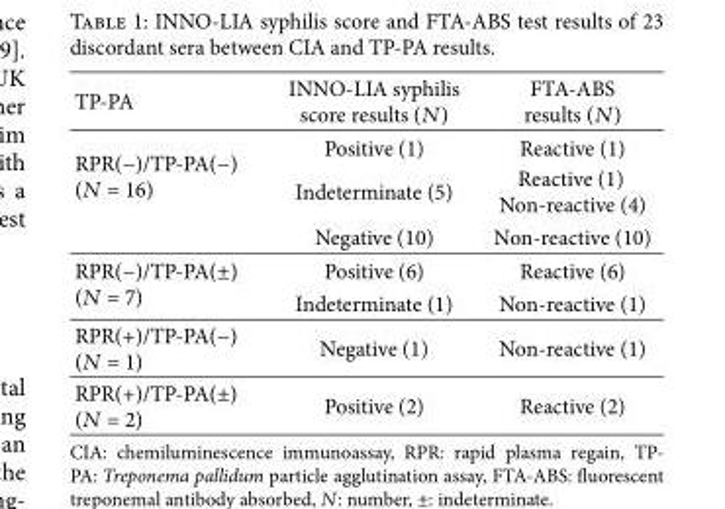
<table><thead><tr><td>TP-PA</td><td>INNO-LIA syphilis score results (𝑁𝑁)</td><td>FTA-ABS results (𝑁𝑁)</td></tr></thead><tbody><tr><td rowspan="3">RPR(−)/TP-PA(−) (𝑁𝑁 = 16)</td><td>Positive (1)</td><td>Reactive (1)</td></tr><tr><td>Indeterminate (5)</td><td>Reactive (1) Non-reactive (4)</td></tr><tr><td>Negative (10)</td><td>Non-reactive (10)</td></tr><tr><td rowspan="2">RPR(−)/TP-PA(±) (𝑁𝑁 = 7)</td><td>Positive (6)</td><td>Reactive (6)</td></tr><tr><td>Indeterminate (1)</td><td>Non-reactive (1)</td></tr><tr><td>RPR(+)/TP-PA(−) (𝑁𝑁 = 1)</td><td>Negative (1)</td><td>Non-reactive (1)</td></tr><tr><td>RPR(+)/TP-PA(±) (𝑁𝑁 = 2)</td><td>Positive (2)</td><td>Reactive (2)</td></tr></tbody></table>